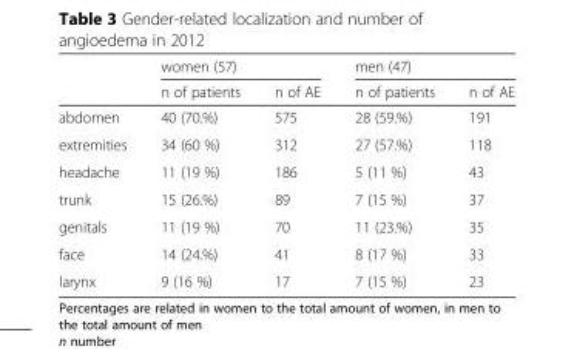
<table><thead><tr><td rowspan="2"></td><td colspan="2">women (57)</td><td colspan="2">men (47)</td></tr><tr><td>n of patients</td><td>n of AE</td><td>n of patients</td><td>n of AE</td></tr></thead><tbody><tr><td>abdomen</td><td>40 (70.%)</td><td>575</td><td>28 (59.%)</td><td>191</td></tr><tr><td>extremities</td><td>34 (60 %)</td><td>312</td><td>27 (57.%)</td><td>118</td></tr><tr><td>headache</td><td>11 (19 %)</td><td>186</td><td>5 (11 %)</td><td>43</td></tr><tr><td>trunk</td><td>15 (26.%)</td><td>89</td><td>7 (15 %)</td><td>37</td></tr><tr><td>genitals</td><td>11 (19 %)</td><td>70</td><td>11 (23.%)</td><td>35</td></tr><tr><td>face</td><td>14 (24.%)</td><td>41</td><td>8 (17 %)</td><td>33</td></tr><tr><td>larynx</td><td>9 (16 %)</td><td>17</td><td>7 (15 %)</td><td>23</td></tr></tbody></table>